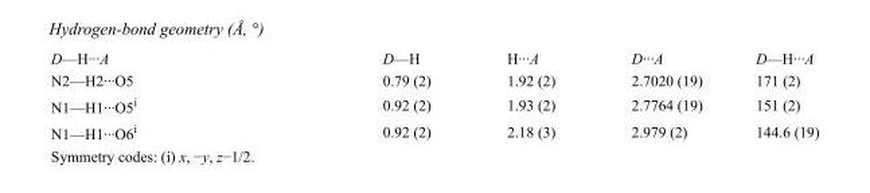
<table><tbody><tr><td>D—H···A</td><td>D—H</td><td>H···A</td><td>D···A</td><td>D—H···A</td></tr><tr><td>N2—H2···O5</td><td>0.79 (2)</td><td>1.92 (2)</td><td>2.7020 (19)</td><td>171 (2)</td></tr><tr><td>N1—H1···O5<sup>i</sup></td><td>0.92 (2)</td><td>1.93 (2)</td><td>2.7764 (19)</td><td>151 (2)</td></tr><tr><td>N1—H1···O6<sup>i</sup></td><td>0.92 (2)</td><td>2.18 (3)</td><td>2.979 (2)</td><td>144.6 (19)</td></tr></tbody></table>